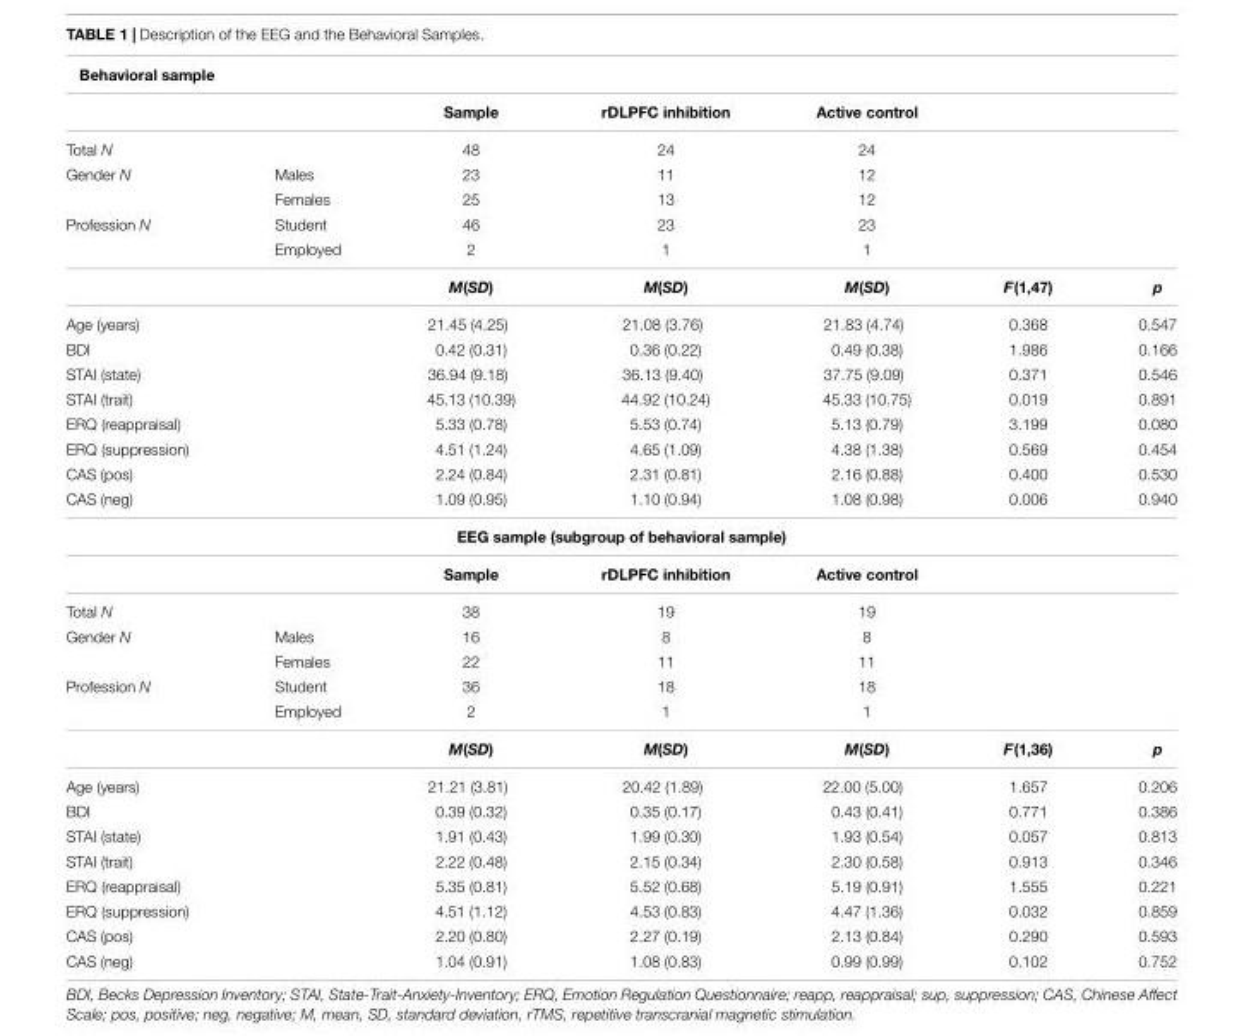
<table><thead><tr><td colspan="7">Behavioral sample</td></tr><tr><td></td><td></td><td>Sample</td><td>rDLPFC inhibition</td><td>Active control</td><td></td><td></td></tr></thead><tbody><tr><td>Total N</td><td></td><td>48</td><td>24</td><td>24</td><td></td><td></td></tr><tr><td rowspan="2">Gender N</td><td>Males</td><td>23</td><td>11</td><td>12</td><td></td><td></td></tr><tr><td>Females</td><td>25</td><td>13</td><td>12</td><td></td><td></td></tr><tr><td rowspan="3">Profession N</td><td>Student</td><td>46</td><td>23</td><td>23</td><td></td><td></td></tr><tr><td>Employed</td><td>2</td><td>1</td><td>1</td><td></td><td></td></tr><tr><td></td><td>M(SD)</td><td>M(SD)</td><td>M(SD)</td><td>F(1,47)</td><td>p</td></tr><tr><td>Age (years)</td><td></td><td>21.45 (4.25)</td><td>21.08 (3.76)</td><td>21.83 (4.74)</td><td>0.368</td><td>0.547</td></tr><tr><td>BDI</td><td></td><td>0.42 (0.31)</td><td>0.36 (0.22)</td><td>0.49 (0.38)</td><td>1.986</td><td>0.166</td></tr><tr><td>STAI (state)</td><td></td><td>36.94 (9.18)</td><td>36.13 (9.40)</td><td>37.75 (9.09)</td><td>0.371</td><td>0.546</td></tr><tr><td>STAI (trait)</td><td></td><td>45.13 (10.39)</td><td>44.92 (10.24)</td><td>45.33 (10.75)</td><td>0.019</td><td>0.891</td></tr><tr><td>ERQ (reappraisal)</td><td></td><td>5.33 (0.78)</td><td>5.53 (0.74)</td><td>5.13 (0.79)</td><td>3.199</td><td>0.080</td></tr><tr><td>ERQ (suppression)</td><td></td><td>4.51 (1.24)</td><td>4.65 (1.09)</td><td>4.38 (1.38)</td><td>0.569</td><td>0.454</td></tr><tr><td>CAS (pos)</td><td></td><td>2.24 (0.84)</td><td>2.31 (0.81)</td><td>2.16 (0.88)</td><td>0.400</td><td>0.530</td></tr><tr><td>CAS (neg)</td><td></td><td>1.09 (0.95)</td><td>1.10 (0.94)</td><td>1.08 (0.98)</td><td>0.006</td><td>0.940</td></tr><tr><td colspan="7">EEG sample (subgroup of behavioral sample)</td></tr><tr><td></td><td></td><td>Sample</td><td>rDLPFC inhibition</td><td>Active control</td><td colspan="2"></td></tr><tr><td>Total N</td><td></td><td>38</td><td>19</td><td>19</td><td></td><td></td></tr><tr><td rowspan="2">Gender N</td><td>Males</td><td>16</td><td>8</td><td>8</td><td></td><td></td></tr><tr><td>Females</td><td>22</td><td>11</td><td>11</td><td></td><td></td></tr><tr><td rowspan="3">Profession N</td><td>Student</td><td>36</td><td>18</td><td>18</td><td></td><td></td></tr><tr><td>Employed</td><td>2</td><td>1</td><td>1</td><td></td><td></td></tr><tr><td></td><td>M(SD)</td><td>M(SD)</td><td>M(SD)</td><td>F(1,36)</td><td>p</td></tr><tr><td>Age (years)</td><td></td><td>21.21 (3.81)</td><td>20.42 (1.89)</td><td>22.00 (5.00)</td><td>1.657</td><td>0.206</td></tr><tr><td>BDI</td><td></td><td>0.39 (0.32)</td><td>0.35 (0.17)</td><td>0.43 (0.41)</td><td>0.771</td><td>0.386</td></tr><tr><td>STAI (state)</td><td></td><td>1.91 (0.43)</td><td>1.99 (0.30)</td><td>1.93 (0.54)</td><td>0.057</td><td>0.813</td></tr><tr><td>STAI (trait)</td><td></td><td>2.22 (0.48)</td><td>2.15 (0.34)</td><td>2.30 (0.58)</td><td>0.913</td><td>0.346</td></tr><tr><td>ERQ (reappraisal)</td><td></td><td>5.35 (0.81)</td><td>5.52 (0.68)</td><td>5.19 (0.91)</td><td>1.555</td><td>0.221</td></tr><tr><td>ERQ (suppression)</td><td></td><td>4.51 (1.12)</td><td>4.53 (0.83)</td><td>4.47 (1.36)</td><td>0.032</td><td>0.859</td></tr><tr><td>CAS (pos)</td><td></td><td>2.20 (0.80)</td><td>2.27 (0.19)</td><td>2.13 (0.84)</td><td>0.290</td><td>0.593</td></tr><tr><td>CAS (neg)</td><td></td><td>1.04 (0.91)</td><td>1.08 (0.83)</td><td>0.99 (0.99)</td><td>0.102</td><td>0.752</td></tr></tbody></table>